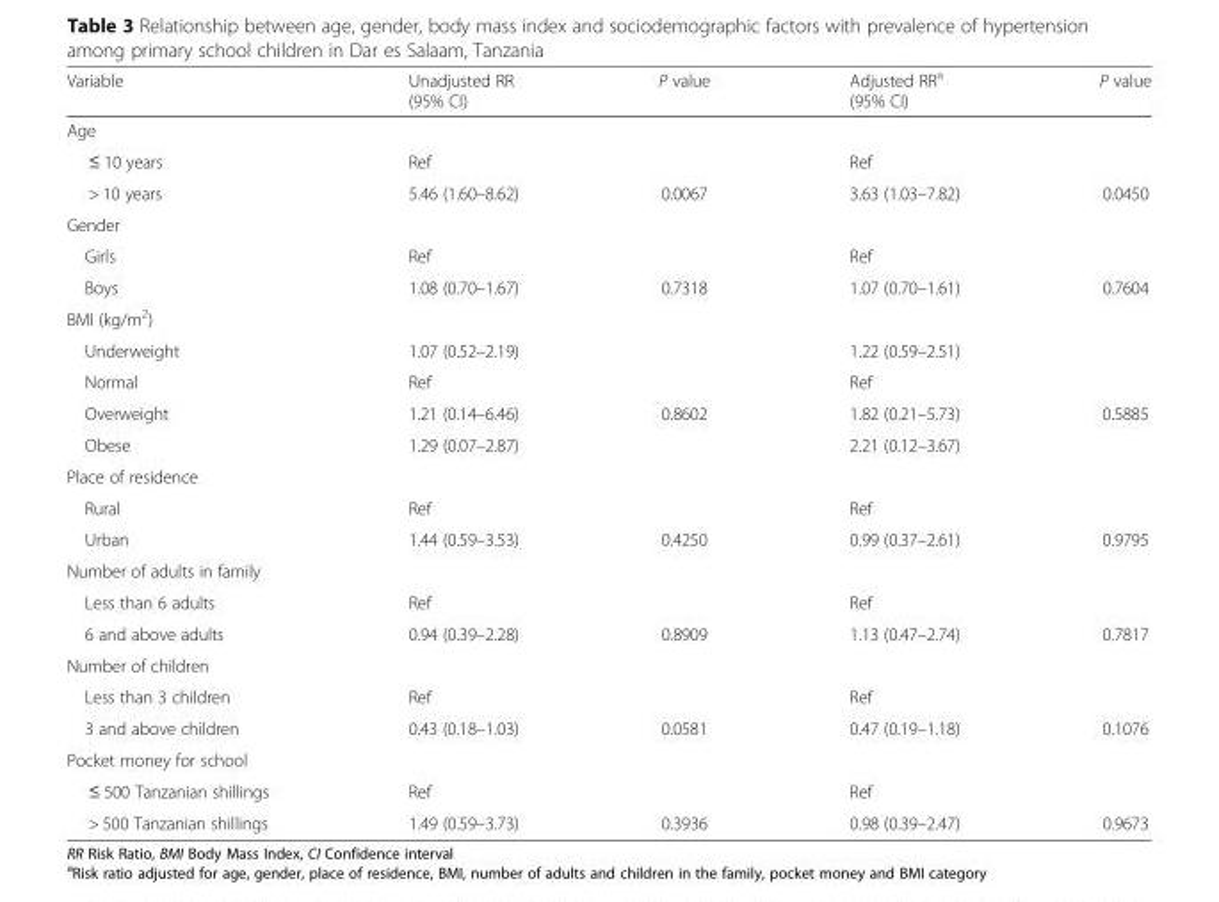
<table><thead><tr><td>Variable</td><td>Unadjusted RR (95% CI)</td><td>P value</td><td>Adjusted RR<sup>a</sup> (95% CI)</td><td>P value</td></tr></thead><tbody><tr><td colspan="5">Age</td></tr><tr><td>≤ 10 years</td><td>Ref</td><td></td><td>Ref</td><td></td></tr><tr><td>&gt; 10 years</td><td>5.46 (1.60–8.62)</td><td>0.0067</td><td>3.63 (1.03–7.82)</td><td>0.0450</td></tr><tr><td colspan="5">Gender</td></tr><tr><td>Girls</td><td>Ref</td><td></td><td>Ref</td><td></td></tr><tr><td>Boys</td><td>1.08 (0.70–1.67)</td><td>0.7318</td><td>1.07 (0.70–1.61)</td><td>0.7604</td></tr><tr><td colspan="5">BMI (kg/m<sup>2</sup>)</td></tr><tr><td>Underweight</td><td>1.07 (0.52–2.19)</td><td></td><td>1.22 (0.59–2.51)</td><td></td></tr><tr><td>Normal</td><td>Ref</td><td></td><td>Ref</td><td></td></tr><tr><td>Overweight</td><td>1.21 (0.14–6.46)</td><td>0.8602</td><td>1.82 (0.21–5.73)</td><td>0.5885</td></tr><tr><td>Obese</td><td>1.29 (0.07–2.87)</td><td></td><td>2.21 (0.12–3.67)</td><td></td></tr><tr><td colspan="5">Place of residence</td></tr><tr><td>Rural</td><td>Ref</td><td></td><td>Ref</td><td></td></tr><tr><td>Urban</td><td>1.44 (0.59–3.53)</td><td>0.4250</td><td>0.99 (0.37–2.61)</td><td>0.9795</td></tr><tr><td colspan="5">Number of adults in family</td></tr><tr><td>Less than 6 adults</td><td>Ref</td><td></td><td>Ref</td><td></td></tr><tr><td>6 and above adults</td><td>0.94 (0.39–2.28)</td><td>0.8909</td><td>1.13 (0.47–2.74)</td><td>0.7817</td></tr><tr><td colspan="5">Number of children</td></tr><tr><td>Less than 3 children</td><td>Ref</td><td></td><td>Ref</td><td></td></tr><tr><td>3 and above children</td><td>0.43 (0.18–1.03)</td><td>0.0581</td><td>0.47 (0.19–1.18)</td><td>0.1076</td></tr><tr><td colspan="5">Pocket money for school</td></tr><tr><td>≤ 500 Tanzanian shillings</td><td>Ref</td><td></td><td>Ref</td><td></td></tr><tr><td>&gt; 500 Tanzanian shillings</td><td>1.49 (0.59–3.73)</td><td>0.3936</td><td>0.98 (0.39–2.47)</td><td>0.9673</td></tr></tbody></table>